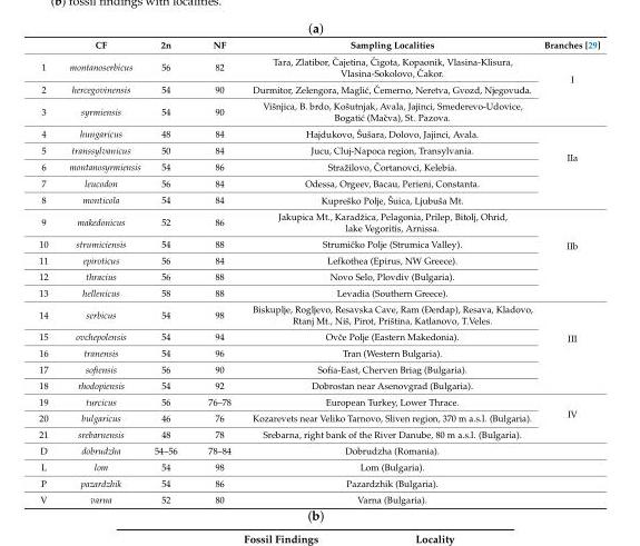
<table><thead><tr><td></td><td>CF</td><td>2n</td><td>NF</td><td>Sampling Localities</td><td>Branches [29]</td></tr></thead><tbody><tr><td>1</td><td>montanoserbicus</td><td>56</td><td>82</td><td>Tara, Zlatibor, ˇCajetina, ˇCigota, Kopaonik, Vlasina-Klisura, Vlasina-Sokolovo, ˇCakor.</td><td rowspan="3">I</td></tr><tr><td>2</td><td>hercegovinensis</td><td>54</td><td>90</td><td>Durmitor, Zelengora, Magli´c, ˇCemerno, Neretva, Gvozd, Njegovuđa.</td></tr><tr><td>3</td><td>syrmiensis</td><td>54</td><td>90</td><td>Višnjica, B. brdo, Košutnjak, Avala, Jajinci, Smederevo-Udovice, Bogati´c (Maˇcva), St. Pazova.</td></tr><tr><td>4</td><td>hungaricus</td><td>48</td><td>84</td><td>Hajdukovo, Šušara, Dolovo, Jajinci, Avala.</td><td rowspan="5">IIa</td></tr><tr><td>5</td><td>transsylvanicus</td><td>50</td><td>84</td><td>Jucu, Cluj-Napoca region, Transylvania.</td></tr><tr><td>6</td><td>montanosyrmiensis</td><td>54</td><td>86</td><td>Stražilovo, ˇCortanovci, Kelebia.</td></tr><tr><td>7</td><td>leucodon</td><td>56</td><td>84</td><td>Odessa, Orgeev, Bacau, Perieni, Constanta.</td></tr><tr><td>8</td><td>monticola</td><td>54</td><td>84</td><td>Kupreško Polje, Šuica, Ljubuša Mt.</td></tr><tr><td>9</td><td>makedonicus</td><td>52</td><td>86</td><td>Jakupica Mt., Karadžica, Pelagonia, Prilep, Bitolj, Ohrid, lake Vegoritis, Arnissa.</td><td rowspan="5">IIb</td></tr><tr><td>10</td><td>strumiciensis</td><td>54</td><td>88</td><td>Strumiˇcko Polje (Strumica Valley).</td></tr><tr><td>11</td><td>epiroticus</td><td>56</td><td>84</td><td>Lefkothea (Epirus, NW Greece).</td></tr><tr><td>12</td><td>thracius</td><td>56</td><td>88</td><td>Novo Selo, Plovdiv (Bulgaria).</td></tr><tr><td>13</td><td>hellenicus</td><td>58</td><td>88</td><td>Levadia (Southern Greece).</td></tr><tr><td>14</td><td>serbicus</td><td>54</td><td>98</td><td>Biskuplje, Rogljevo, Resavska Cave, Ram (Đerdap), Resava, Kladovo, Rtanj Mt., Niš, Pirot, Priština, Katlanovo, T.Veles.</td><td rowspan="5">III</td></tr><tr><td>15</td><td>ovchepolensis</td><td>54</td><td>94</td><td>Ovˇce Polje (Eastern Makedonia).</td></tr><tr><td>16</td><td>tranensis</td><td>54</td><td>96</td><td>Tran (Western Bulgaria).</td></tr><tr><td>17</td><td>sofiensis</td><td>56</td><td>90</td><td>Sofia-East, Cherven Briag (Bulgaria).</td></tr><tr><td>18</td><td>rhodopiensis</td><td>54</td><td>92</td><td>Dobrostan near Asenovgrad (Bulgaria).</td></tr><tr><td>19</td><td>turcicus</td><td>56</td><td>76–78</td><td>European Turkey, Lower Thrace.</td><td rowspan="3">IV</td></tr><tr><td>20</td><td>bulgaricus</td><td>46</td><td>76</td><td>Kozarevets near Veliko Tarnovo, Sliven region, 370 m a.s.l. (Bulgaria).</td></tr><tr><td>21</td><td>srebarnensis</td><td>48</td><td>78</td><td>Srebarna, right bank of the River Danube, 80 m a.s.l. (Bulgaria).</td></tr><tr><td>D</td><td>dobrudzha</td><td>54–56</td><td>78–84</td><td>Dobrudzha (Romania).</td><td></td></tr><tr><td>L</td><td>lom</td><td>54</td><td>98</td><td>Lom (Bulgaria).</td><td></td></tr><tr><td>P</td><td>pazardzhik</td><td>54</td><td>86</td><td>Pazardzhik (Bulgaria).</td><td></td></tr><tr><td>V</td><td>varna</td><td>52</td><td>80</td><td>Varna (Bulgaria).</td><td></td></tr></tbody></table>